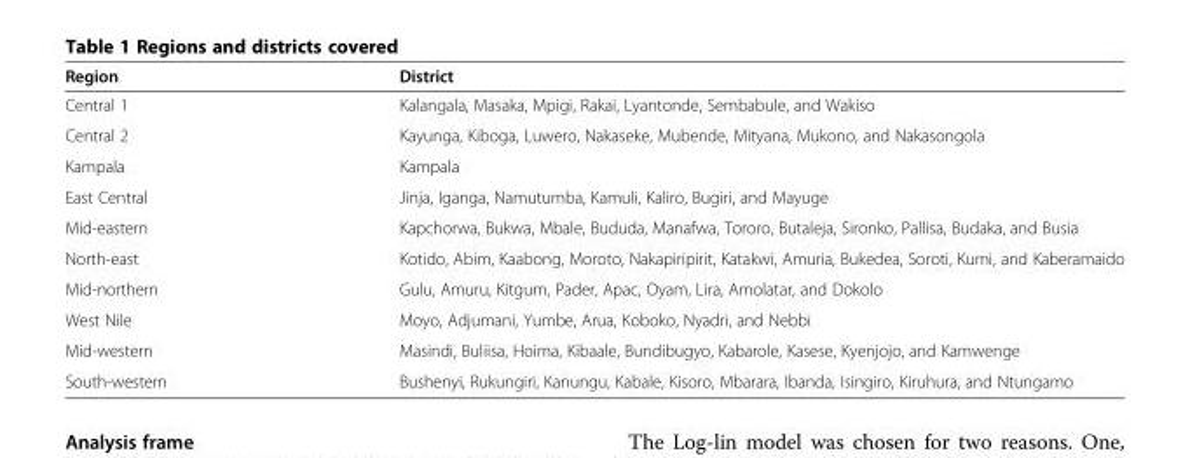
<table><thead><tr><td>Region</td><td>District</td></tr></thead><tbody><tr><td>Central 1</td><td>Kalangala, Masaka, Mpigi, Rakai, Lyantonde, Sembabule, and Wakiso</td></tr><tr><td>Central 2</td><td>Kayunga, Kiboga, Luwero, Nakaseke, Mubende, Mityana, Mukono, and Nakasongola</td></tr><tr><td>Kampala</td><td>Kampala</td></tr><tr><td>East Central</td><td>Jinja, Iganga, Namutumba, Kamuli, Kaliro, Bugiri, and Mayuge</td></tr><tr><td>Mid-eastern</td><td>Kapchorwa, Bukwa, Mbale, Bududa, Manafwa, Tororo, Butaleja, Sironko, Pallisa, Budaka, and Busia</td></tr><tr><td>North-east</td><td>Kotido, Abim, Kaabong, Moroto, Nakapiripirit, Katakwi, Amuria, Bukedea, Soroti, Kumi, and Kaberamaido</td></tr><tr><td>Mid-northern</td><td>Gulu, Amuru, Kitgum, Pader, Apac, Oyam, Lira, Amolatar, and Dokolo</td></tr><tr><td>West Nile</td><td>Moyo, Adjumani, Yumbe, Arua, Koboko, Nyadri, and Nebbi</td></tr><tr><td>Mid-western</td><td>Masindi, Buliisa, Hoima, Kibaale, Bundibugyo, Kabarole, Kasese, Kyenjojo, and Kamwenge</td></tr><tr><td>South-western</td><td>Bushenyi, Rukungiri, Kanungu, Kabale, Kisoro, Mbarara, Ibanda, Isingiro, Kiruhura, and Ntungamo</td></tr></tbody></table>